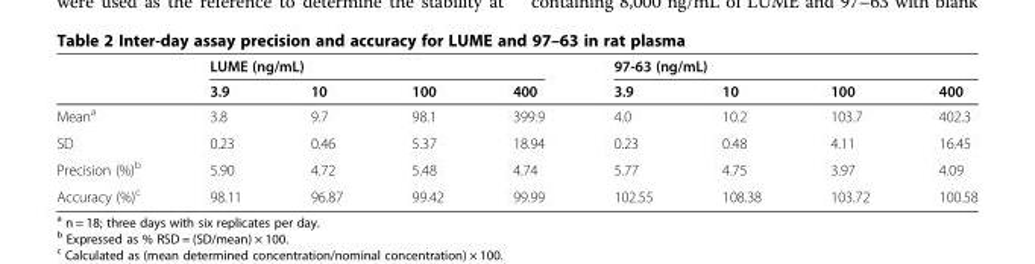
<table><thead><tr><td rowspan="2"></td><td colspan="4">LUME (ng/mL)</td><td colspan="4">97-63 (ng/mL)</td></tr><tr><td>3.9</td><td>10</td><td>100</td><td>400</td><td>3.9</td><td>10</td><td>100</td><td>400</td></tr></thead><tbody><tr><td>Mean<sup>a</sup></td><td>3.8</td><td>9.7</td><td>98.1</td><td>399.9</td><td>4.0</td><td>10.2</td><td>103.7</td><td>402.3</td></tr><tr><td>SD</td><td>0.23</td><td>0.46</td><td>5.37</td><td>18.94</td><td>0.23</td><td>0.48</td><td>4.11</td><td>16.45</td></tr><tr><td>Precision (%)<sup>b</sup></td><td>5.90</td><td>4.72</td><td>5.48</td><td>4.74</td><td>5.77</td><td>4.75</td><td>3.97</td><td>4.09</td></tr><tr><td>Accuracy (%)<sup>c</sup></td><td>98.11</td><td>96.87</td><td>99.42</td><td>99.99</td><td>102.55</td><td>108.38</td><td>103.72</td><td>100.58</td></tr></tbody></table>